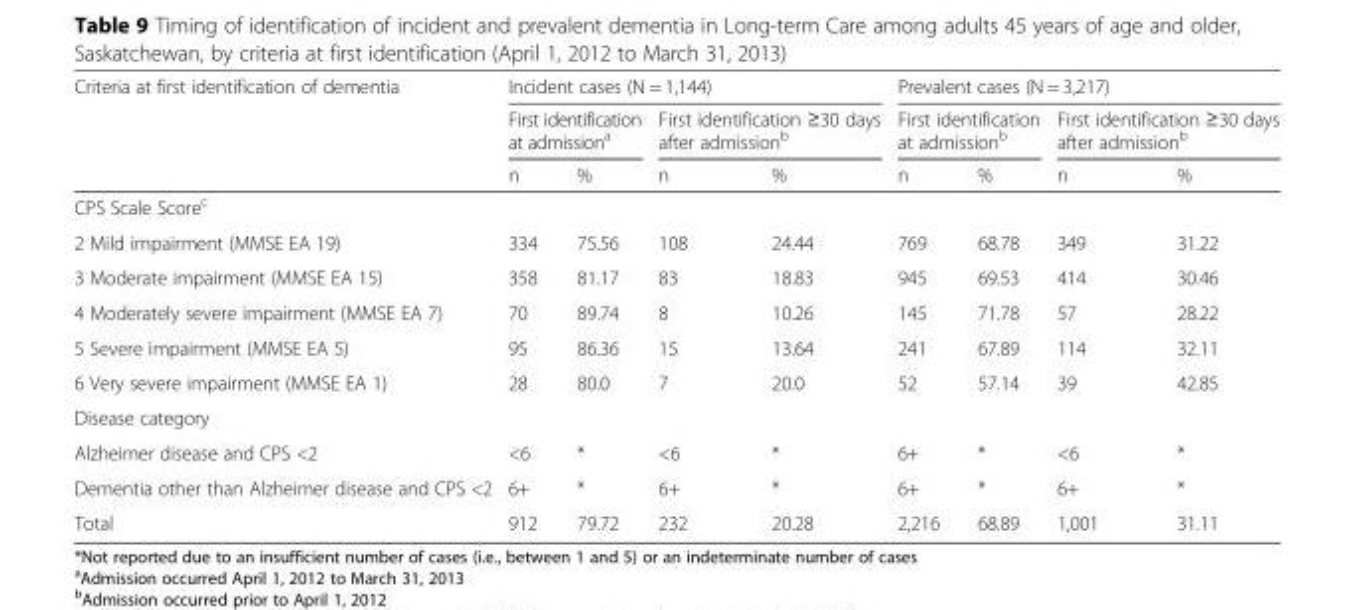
<table><thead><tr><td rowspan="3">Criteria at first identification of dementia</td><td colspan="4">Incident cases (N = 1,144)</td><td colspan="4">Prevalent cases (N = 3,217)</td></tr><tr><td colspan="2">First identification at admission<sup>a</sup></td><td colspan="2">First identification ≥30 days after admission<sup>b</sup></td><td colspan="2">First identification at admission<sup>b</sup></td><td colspan="2">First identification ≥30 days after admission<sup>b</sup></td></tr><tr><td>n</td><td>%</td><td>n</td><td>%</td><td>n</td><td>%</td><td>n</td><td>%</td></tr></thead><tbody><tr><td colspan="9">CPS Scale Score<sup>c</sup></td></tr><tr><td>2 Mild impairment (MMSE EA 19)</td><td>334</td><td>75.56</td><td>108</td><td>24.44</td><td>769</td><td>68.78</td><td>349</td><td>31.22</td></tr><tr><td>3 Moderate impairment (MMSE EA 15)</td><td>358</td><td>81.17</td><td>83</td><td>18.83</td><td>945</td><td>69.53</td><td>414</td><td>30.46</td></tr><tr><td>4 Moderately severe impairment (MMSE EA 7)</td><td>70</td><td>89.74</td><td>8</td><td>10.26</td><td>145</td><td>71.78</td><td>57</td><td>28.22</td></tr><tr><td>5 Severe impairment (MMSE EA 5)</td><td>95</td><td>86.36</td><td>15</td><td>13.64</td><td>241</td><td>67.89</td><td>114</td><td>32.11</td></tr><tr><td>6 Very severe impairment (MMSE EA 1)</td><td>28</td><td>80.0</td><td>7</td><td>20.0</td><td>52</td><td>57.14</td><td>39</td><td>42.85</td></tr><tr><td colspan="9">Disease category</td></tr><tr><td>Alzheimer disease and CPS &lt;2</td><td>&lt;6</td><td>*</td><td>&lt;6</td><td>*</td><td>6+</td><td>*</td><td>&lt;6</td><td>*</td></tr><tr><td>Dementia other than Alzheimer disease and CPS &lt;2</td><td>6+</td><td>*</td><td>6+</td><td>*</td><td>6+</td><td>*</td><td>6+</td><td>*</td></tr><tr><td>Total</td><td>912</td><td>79.72</td><td>232</td><td>20.28</td><td>2,216</td><td>68.89</td><td>1,001</td><td>31.11</td></tr></tbody></table>